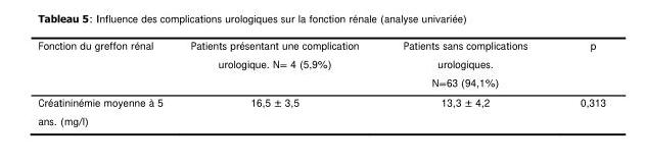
<table><thead><tr><td rowspan="2">Fonction du greffon rénal Créatininémie moyenne à 5 ans. (mg/l)</td><td rowspan="2">Patients présentant une complication urologique. N= 4 (5,9%) 16,5 ± 3,5</td><td rowspan="2">Patients sans complications urologiques. N=63 (94,1%) 13,3 ± 4,2</td><td rowspan="2">p 0,313</td></tr><tr></tr></thead><tbody></tbody></table>